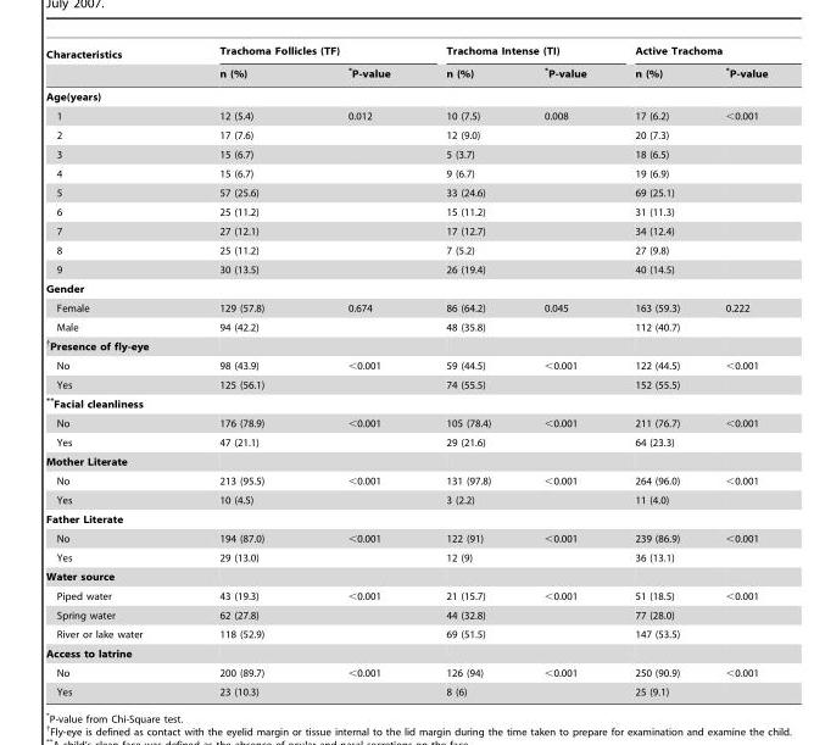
<table><thead><tr><td rowspan="2">Characteristics</td><td colspan="2">Trachoma Follicles (TF)</td><td colspan="2">Trachoma Intense (TI)</td><td colspan="2">Active Trachoma</td></tr><tr><td>n (%)</td><td>*P-value</td><td>n (%)</td><td>*P-value</td><td>n (%)</td><td>*P-value</td></tr></thead><tbody><tr><td colspan="7">Age(years)</td></tr><tr><td>1</td><td>12 (5.4)</td><td>0.012</td><td>10 (7.5)</td><td>0.008</td><td>17 (6.2)</td><td>&lt;0.001</td></tr><tr><td>2</td><td>17 (7.6)</td><td></td><td>12 (9.0)</td><td></td><td>20 (7.3)</td><td></td></tr><tr><td>3</td><td>15 (6.7)</td><td></td><td>5 (3.7)</td><td></td><td>18 (6.5)</td><td></td></tr><tr><td>4</td><td>15 (6.7)</td><td></td><td>9 (6.7)</td><td></td><td>19 (6.9)</td><td></td></tr><tr><td>5</td><td>57 (25.6)</td><td></td><td>33 (24.6)</td><td></td><td>69 (25.1)</td><td></td></tr><tr><td>6</td><td>25 (11.2)</td><td></td><td>15 (11.2)</td><td></td><td>31 (11.3)</td><td></td></tr><tr><td>7</td><td>27 (12.1)</td><td></td><td>17 (12.7)</td><td></td><td>34 (12.4)</td><td></td></tr><tr><td>8</td><td>25 (11.2)</td><td></td><td>7 (5.2)</td><td></td><td>27 (9.8)</td><td></td></tr><tr><td>9</td><td>30 (13.5)</td><td></td><td>26 (19.4)</td><td></td><td>40 (14.5)</td><td></td></tr><tr><td colspan="7">Gender</td></tr><tr><td>Female</td><td>129 (57.8)</td><td>0.674</td><td>86 (64.2)</td><td>0.045</td><td>163 (59.3)</td><td>0.222</td></tr><tr><td>Male</td><td>94 (42.2)</td><td></td><td>48 (35.8)</td><td></td><td>112 (40.7)</td><td></td></tr><tr><td colspan="7">†Presence of fly-eye</td></tr><tr><td>No</td><td>98 (43.9)</td><td>&lt;0.001</td><td>59 (44.5)</td><td>&lt;0.001</td><td>122 (44.5)</td><td>&lt;0.001</td></tr><tr><td>Yes</td><td>125 (56.1)</td><td></td><td>74 (55.5)</td><td></td><td>152 (55.5)</td><td></td></tr><tr><td colspan="7">**Facial cleanliness</td></tr><tr><td>No</td><td>176 (78.9)</td><td>&lt;0.001</td><td>105 (78.4)</td><td>&lt;0.001</td><td>211 (76.7)</td><td>&lt;0.001</td></tr><tr><td>Yes</td><td>47 (21.1)</td><td></td><td>29 (21.6)</td><td></td><td>64 (23.3)</td><td></td></tr><tr><td colspan="7">Mother Literate</td></tr><tr><td>No</td><td>213 (95.5)</td><td>&lt;0.001</td><td>131 (97.8)</td><td>&lt;0.001</td><td>264 (96.0)</td><td>&lt;0.001</td></tr><tr><td>Yes</td><td>10 (4.5)</td><td></td><td>3 (2.2)</td><td></td><td>11 (4.0)</td><td></td></tr><tr><td colspan="7">Father Literate</td></tr><tr><td>No</td><td>194 (87.0)</td><td>&lt;0.001</td><td>122 (91)</td><td>&lt;0.001</td><td>239 (86.9)</td><td>&lt;0.001</td></tr><tr><td>Yes</td><td>29 (13.0)</td><td></td><td>12 (9)</td><td></td><td>36 (13.1)</td><td></td></tr><tr><td colspan="7">Water source</td></tr><tr><td>Piped water</td><td>43 (19.3)</td><td>&lt;0.001</td><td>21 (15.7)</td><td>&lt;0.001</td><td>51 (18.5)</td><td>&lt;0.001</td></tr><tr><td>Spring water</td><td>62 (27.8)</td><td></td><td>44 (32.8)</td><td></td><td>77 (28.0)</td><td></td></tr><tr><td>River or lake water</td><td>118 (52.9)</td><td></td><td>69 (51.5)</td><td></td><td>147 (53.5)</td><td></td></tr><tr><td colspan="7">Access to latrine</td></tr><tr><td>No</td><td>200 (89.7)</td><td>&lt;0.001</td><td>126 (94)</td><td>&lt;0.001</td><td>250 (90.9)</td><td>&lt;0.001</td></tr><tr><td>Yes</td><td>23 (10.3)</td><td></td><td>8 (6)</td><td></td><td>25 (9.1)</td><td></td></tr></tbody></table>